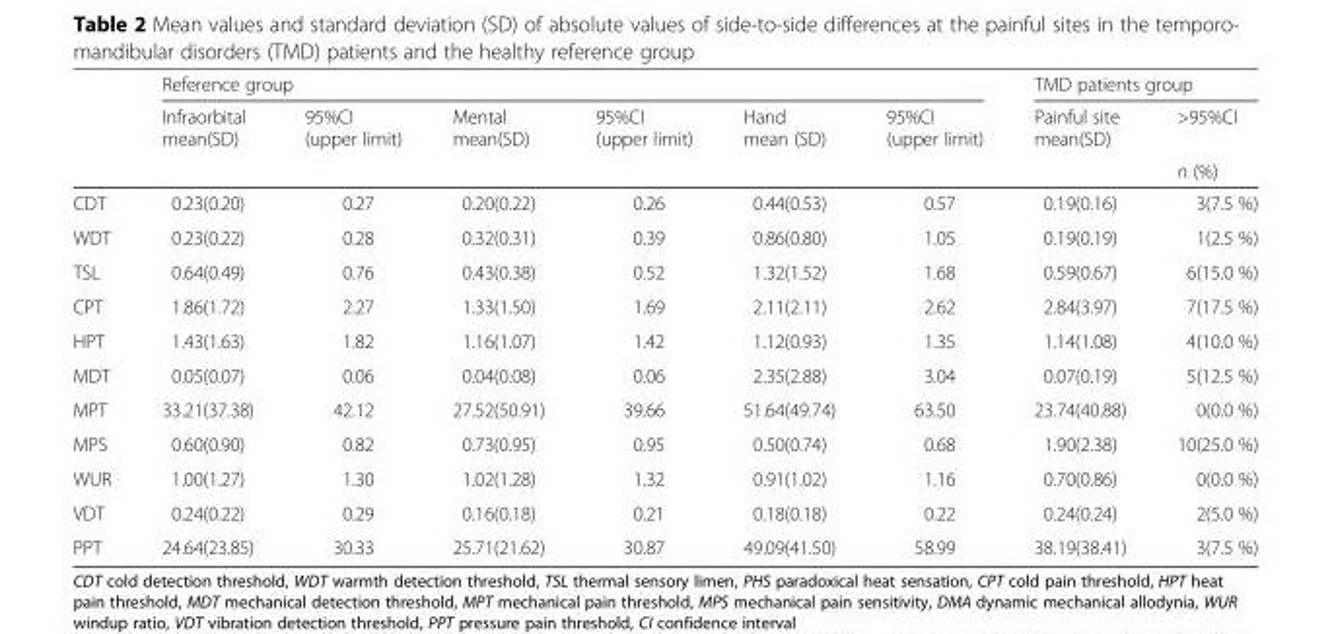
<table><thead><tr><td rowspan="3"></td><td colspan="6">Reference group</td><td colspan="2">TMD patients group</td></tr><tr><td rowspan="2">Infraorbital mean(SD)</td><td rowspan="2">95%CI (upper limit)</td><td rowspan="2">Mental mean(SD)</td><td rowspan="2">95%CI (upper limit)</td><td rowspan="2">Hand mean (SD)</td><td rowspan="2">95%CI (upper limit)</td><td rowspan="2">Painful site mean(SD)</td><td rowspan="2">&gt;95%CI n (%)</td></tr><tr></tr></thead><tbody><tr><td>CDT</td><td>0.23(0.20)</td><td>0.27</td><td>0.20(0.22)</td><td>0.26</td><td>0.44(0.53)</td><td>0.57</td><td>0.19(0.16)</td><td>3(7.5 %)</td></tr><tr><td>WDT</td><td>0.23(0.22)</td><td>0.28</td><td>0.32(0.31)</td><td>0.39</td><td>0.86(0.80)</td><td>1.05</td><td>0.19(0.19)</td><td>1(2.5 %)</td></tr><tr><td>TSL</td><td>0.64(0.49)</td><td>0.76</td><td>0.43(0.38)</td><td>0.52</td><td>1.32(1.52)</td><td>1.68</td><td>0.59(0.67)</td><td>6(15.0 %)</td></tr><tr><td>CPT</td><td>1.86(1.72)</td><td>2.27</td><td>1.33(1.50)</td><td>1.69</td><td>2.11(2.11)</td><td>2.62</td><td>2.84(3.97)</td><td>7(17.5 %)</td></tr><tr><td>HPT</td><td>1.43(1.63)</td><td>1.82</td><td>1.16(1.07)</td><td>1.42</td><td>1.12(0.93)</td><td>1.35</td><td>1.14(1.08)</td><td>4(10.0 %)</td></tr><tr><td>MDT</td><td>0.05(0.07)</td><td>0.06</td><td>0.04(0.08)</td><td>0.06</td><td>2.35(2.88)</td><td>3.04</td><td>0.07(0.19)</td><td>5(12.5 %)</td></tr><tr><td>MPT</td><td>33.21(37.38)</td><td>42.12</td><td>27.52(50.91)</td><td>39.66</td><td>51.64(49.74)</td><td>63.50</td><td>23.74(40.88)</td><td>0(0.0 %)</td></tr><tr><td>MPS</td><td>0.60(0.90)</td><td>0.82</td><td>0.73(0.95)</td><td>0.95</td><td>0.50(0.74)</td><td>0.68</td><td>1.90(2.38)</td><td>10(25.0 %)</td></tr><tr><td>WUR</td><td>1.00(1.27)</td><td>1.30</td><td>1.02(1.28)</td><td>1.32</td><td>0.91(1.02)</td><td>1.16</td><td>0.70(0.86)</td><td>0(0.0 %)</td></tr><tr><td>VDT</td><td>0.24(0.22)</td><td>0.29</td><td>0.16(0.18)</td><td>0.21</td><td>0.18(0.18)</td><td>0.22</td><td>0.24(0.24)</td><td>2(5.0 %)</td></tr><tr><td>PPT</td><td>24.64(23.85)</td><td>30.33</td><td>25.71(21.62)</td><td>30.87</td><td>49.09(41.50)</td><td>58.99</td><td>38.19(38.41)</td><td>3(7.5 %)</td></tr></tbody></table>